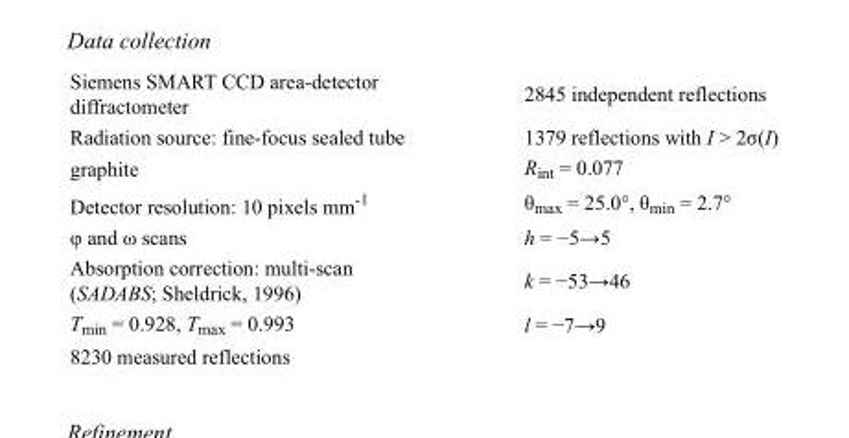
<table><tbody><tr><td>Siemens SMART CCD area-detector diffractometer</td><td>2845 independent reflections</td></tr><tr><td>Radiation source: fine-focus sealed tube</td><td>1379 reflections with I &gt; 2σ(I)</td></tr><tr><td>graphite</td><td>R<sub>int</sub> = 0.077</td></tr><tr><td>Detector resolution: 10 pixels mm<sup>-1</sup></td><td>θ<sub>max</sub> = 25.0°, θ<sub>min</sub> = 2.7°</td></tr><tr><td>φ and ω scans</td><td>h = −5→5</td></tr><tr><td>Absorption correction: multi-scan (SADABS; Sheldrick, 1996)</td><td>k = −53→46</td></tr><tr><td>T<sub>min</sub> = 0.928, T<sub>max</sub> = 0.993</td><td>l = −7→9</td></tr><tr><td>8230 measured reflections</td><td></td></tr></tbody></table>